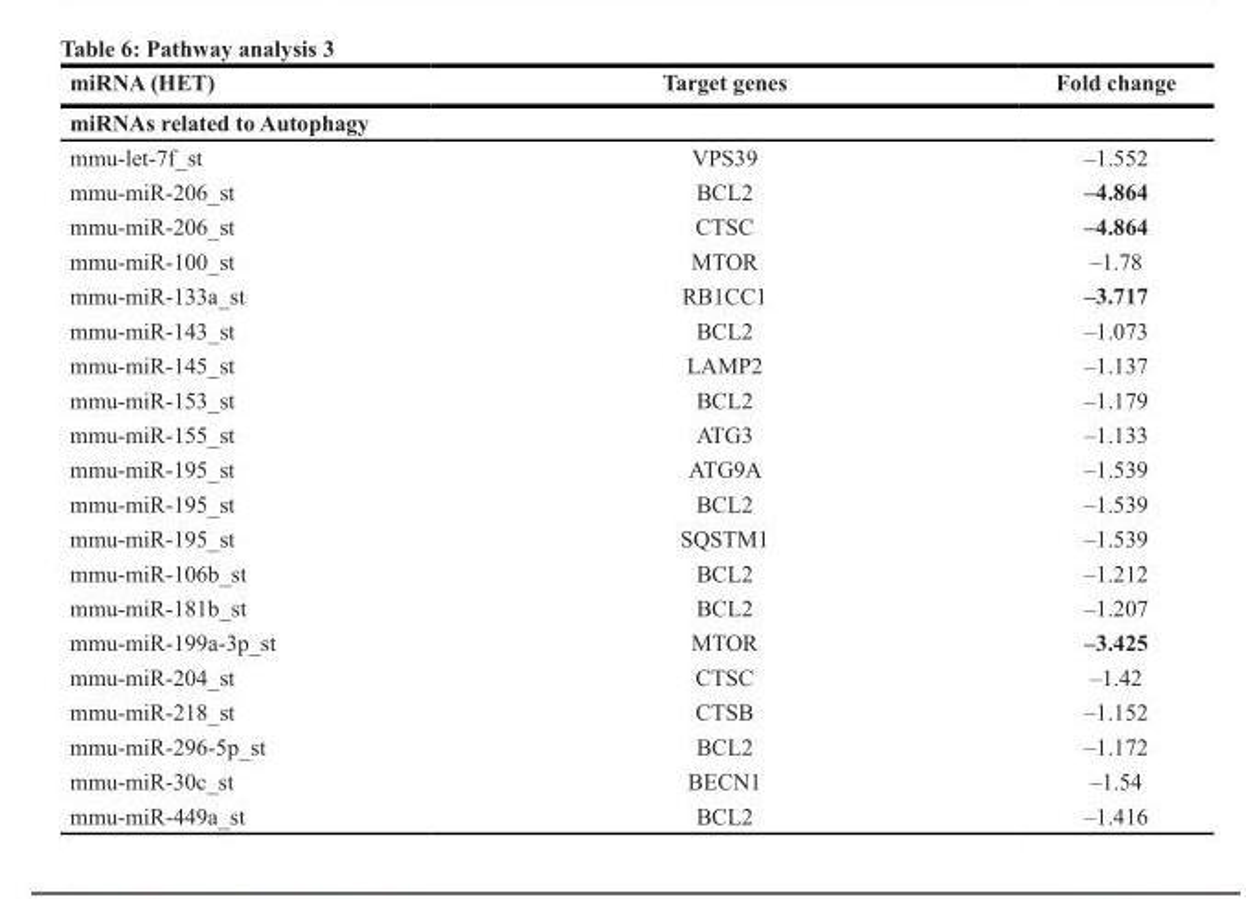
<table><thead><tr><td>miRNA (HET)</td><td>Target genes</td><td>Fold change</td></tr></thead><tbody><tr><td colspan="3">miRNAs related to Autophagy</td></tr><tr><td>mmu-let-7f_st</td><td>VPS39</td><td>–1.552</td></tr><tr><td>mmu-miR-206_st</td><td>BCL2</td><td>–4.864</td></tr><tr><td>mmu-miR-206_st</td><td>CTSC</td><td>–4.864</td></tr><tr><td>mmu-miR-100_st</td><td>MTOR</td><td>–1.78</td></tr><tr><td>mmu-miR-133a_st</td><td>RB1CC1</td><td>–3.717</td></tr><tr><td>mmu-miR-143_st</td><td>BCL2</td><td>–1.073</td></tr><tr><td>mmu-miR-145_st</td><td>LAMP2</td><td>–1.137</td></tr><tr><td>mmu-miR-153_st</td><td>BCL2</td><td>–1.179</td></tr><tr><td>mmu-miR-155_st</td><td>ATG3</td><td>–1.133</td></tr><tr><td>mmu-miR-195_st</td><td>ATG9A</td><td>–1.539</td></tr><tr><td>mmu-miR-195_st</td><td>BCL2</td><td>–1.539</td></tr><tr><td>mmu-miR-195_st</td><td>SQSTM1</td><td>–1.539</td></tr><tr><td>mmu-miR-106b_st</td><td>BCL2</td><td>–1.212</td></tr><tr><td>mmu-miR-181b_st</td><td>BCL2</td><td>–1.207</td></tr><tr><td>mmu-miR-199a-3p_st</td><td>MTOR</td><td>–3.425</td></tr><tr><td>mmu-miR-204_st</td><td>CTSC</td><td>–1.42</td></tr><tr><td>mmu-miR-218_st</td><td>CTSB</td><td>–1.152</td></tr><tr><td>mmu-miR-296-5p_st</td><td>BCL2</td><td>–1.172</td></tr><tr><td>mmu-miR-30c_st</td><td>BECN1</td><td>–1.54</td></tr><tr><td>mmu-miR-449a_st</td><td>BCL2</td><td>–1.416</td></tr></tbody></table>